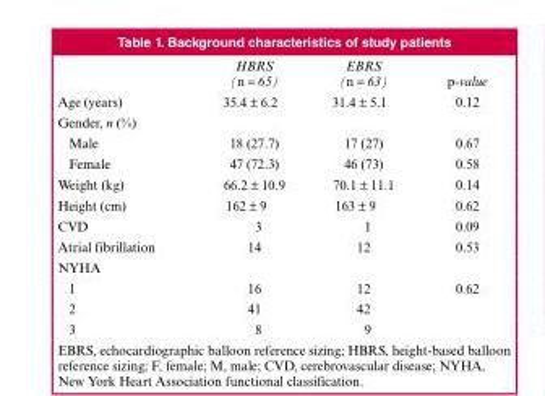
<table><thead><tr><td></td><td>HBRS (n = 65)</td><td>EBRS (n = 63)</td><td>p-value</td></tr></thead><tbody><tr><td>Age (years)</td><td>35.4 ± 6.2</td><td>31.4 ± 5.1</td><td>0.12</td></tr><tr><td colspan="4">Gender, n (%)</td></tr><tr><td>Male</td><td>18 (27.7)</td><td>17 (27)</td><td>0.67</td></tr><tr><td>Female</td><td>47 (72.3)</td><td>46 (73)</td><td>0.58</td></tr><tr><td>Weight (kg)</td><td>66.2 ± 10.9</td><td>70.1 ± 11.1</td><td>0.14</td></tr><tr><td>Height (cm)</td><td>162 ± 9</td><td>163 ± 9</td><td>0.62</td></tr><tr><td>CVD</td><td>3</td><td>1</td><td>0.09</td></tr><tr><td>Atrial fibrillation</td><td>14</td><td>12</td><td>0.53</td></tr><tr><td colspan="4">NYHA</td></tr><tr><td>1</td><td>16</td><td>12</td><td>0.62</td></tr><tr><td>2</td><td>41</td><td>42</td><td></td></tr><tr><td>3</td><td>8</td><td>9</td><td></td></tr></tbody></table>